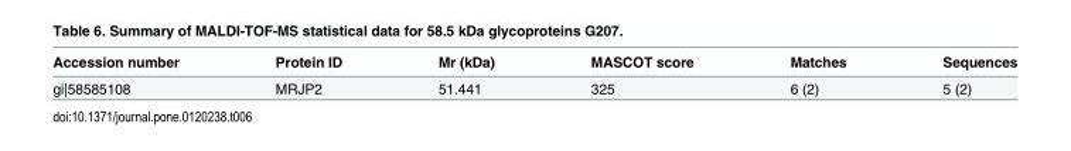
<table><thead><tr><td>Accession number</td><td>Protein ID</td><td>Mr (kDa)</td><td>MASCOT score</td><td>Matches</td><td>Sequences</td></tr></thead><tbody><tr><td>gi|58585108</td><td>MRJP2</td><td>51.441</td><td>325</td><td>6 (2)</td><td>5 (2)</td></tr></tbody></table>